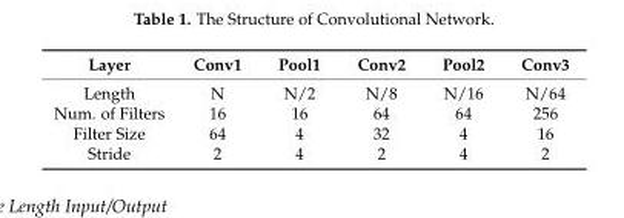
<table><thead><tr><td>Layer</td><td>Conv1</td><td>Pool1</td><td>Conv2</td><td>Pool2</td><td>Conv3</td></tr></thead><tbody><tr><td>Length</td><td>N</td><td>N/2</td><td>N/8</td><td>N/16</td><td>N/64</td></tr><tr><td>Num. of Filters</td><td>16</td><td>16</td><td>64</td><td>64</td><td>256</td></tr><tr><td>Filter Size</td><td>64</td><td>4</td><td>32</td><td>4</td><td>16</td></tr><tr><td>Stride</td><td>2</td><td>4</td><td>2</td><td>4</td><td>2</td></tr></tbody></table>